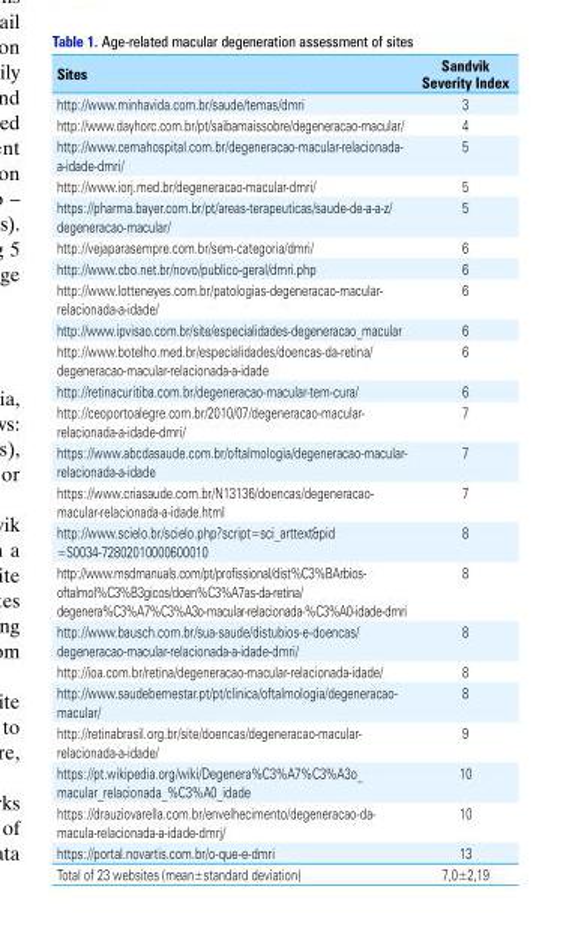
<table><thead><tr><td>Sites</td><td>Sandvik Severity Index</td></tr></thead><tbody><tr><td>http://www.minhavida.com.br/saude/temas/dmri</td><td>3</td></tr><tr><td>http://www.dayhorc.com.br/pt/saibamaissobre/degeneracao-macular/</td><td>4</td></tr><tr><td>http://www.cemahospital.com.br/degeneracao-macular-relacionada- a-idade-dmri/</td><td>5</td></tr><tr><td>http://www.iorj.med.br/degeneracao-macular-dmri/</td><td>5</td></tr><tr><td>https://pharma.bayer.com.br/pt/areas-terapeuticas/saude-de-a-a-z/ degeneracao-macular/</td><td>5</td></tr><tr><td>http://vejaparasempre.com.br/sem-categoria/dmri/</td><td>6</td></tr><tr><td>http://www.cbo.net.br/novo/publico-geral/dmri.php</td><td>6</td></tr><tr><td>http://www.lotteneyes.com.br/patologias-degeneracao-macular- relacionada-a-idade/</td><td>6</td></tr><tr><td>http://www.ipvisao.com.br/site/especialidades-degeneracao_macular</td><td>6</td></tr><tr><td>http://www.botelho.med.br/especialidades/doencas-da-retina/ degeneracao-macular-relacionada-a-idade</td><td>6</td></tr><tr><td>http://retinacuritiba.com.br/degeneracao-macular-tem-cura/</td><td>6</td></tr><tr><td>http://ceoportoalegre.com.br/2010/07/degeneracao-macular- relacionada-a-idade-dmri/</td><td>7</td></tr><tr><td>https://www.abcdasaude.com.br/oftalmologia/degeneracao-macular- relacionada-a-idade</td><td>7</td></tr><tr><td>https://www.criasaude.com.br/N13136/doencas/degeneracao- macular-relacionada-a-idade.html</td><td>7</td></tr><tr><td>http://www.scielo.br/scielo.php?script=sci_arttext&amp;pid =S0034-72802010000600010</td><td>8</td></tr><tr><td>http://www.msdmanuals.com/pt/profissional/dist%C3%BArbios- oftalmol%C3%B3gicos/doen%C3%A7as-da-retina/ degenera%C3%A7%C3%A3o-macular-relacionada-%C3%A0-idade-dmri</td><td>8</td></tr><tr><td>http://www.bausch.com.br/sua-saude/distubios-e-doencas/ degeneracao-macular-relacionada-a-idade-dmri/</td><td>8</td></tr><tr><td>http://ioa.com.br/retina/degeneracao-macular-relacionada-idade/</td><td>8</td></tr><tr><td>http://www.saudebemestar.pt/pt/clinica/oftalmologia/degeneracao- macular/</td><td>8</td></tr><tr><td>http://retinabrasil.org.br/site/doencas/degeneracao-macular- relacionada-a-idade/</td><td>9</td></tr><tr><td>https://pt.wikipedia.org/wiki/Degenera%C3%A7%C3%A3o_ macular_relacionada_%C3%A0_idade</td><td>10</td></tr><tr><td>https://drauziovarella.com.br/envelhecimento/degeneracao-da- macula-relacionada-a-idade-dmrj/</td><td>10</td></tr><tr><td>https://portal.novartis.com.br/o-que-e-dmri</td><td>13</td></tr><tr><td>Total of 23 websites (mean±standard deviation)</td><td>7,0±2,19</td></tr></tbody></table>